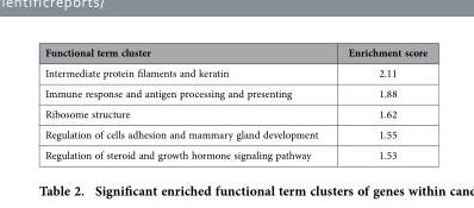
<table><thead><tr><td>Functional term cluster</td><td>Enrichment score</td></tr></thead><tbody><tr><td>Intermediate protein filaments and keratin</td><td>2.11</td></tr><tr><td>Immune response and antigen processing and presenting</td><td>1.88</td></tr><tr><td>Ribosome structure</td><td>1.62</td></tr><tr><td>Regulation of cells adhesion and mammary gland development</td><td>1.55</td></tr><tr><td>Regulation of steroid and growth hormone signaling pathway</td><td>1.53</td></tr></tbody></table>